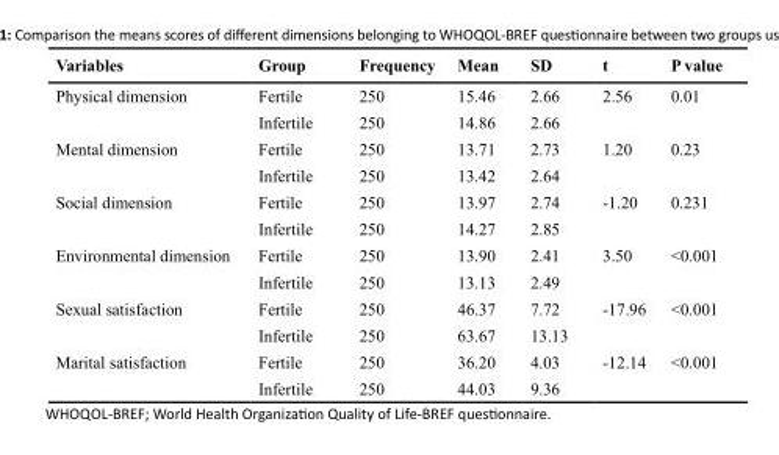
<table><thead><tr><td>Variables</td><td>Group</td><td>Frequency</td><td>Mean</td><td>SD</td><td>t</td><td>P value</td></tr></thead><tbody><tr><td rowspan="2">Physical dimension</td><td>Fertile</td><td>250</td><td>15.46</td><td>2.66</td><td>2.56</td><td>0.01</td></tr><tr><td>Infertile</td><td>250</td><td>14.86</td><td>2.66</td><td></td><td></td></tr><tr><td rowspan="2">Mental dimension</td><td>Fertile</td><td>250</td><td>13.71</td><td>2.73</td><td>1.20</td><td>0.23</td></tr><tr><td>Infertile</td><td>250</td><td>13.42</td><td>2.64</td><td></td><td></td></tr><tr><td rowspan="2">Social dimension</td><td>Fertile</td><td>250</td><td>13.97</td><td>2.74</td><td>-1.20</td><td>0.231</td></tr><tr><td>Infertile</td><td>250</td><td>14.27</td><td>2.85</td><td></td><td></td></tr><tr><td rowspan="2">Environmental dimension</td><td>Fertile</td><td>250</td><td>13.90</td><td>2.41</td><td>3.50</td><td>&lt;0.001</td></tr><tr><td>Infertile</td><td>250</td><td>13.13</td><td>2.49</td><td></td><td></td></tr><tr><td rowspan="2">Sexual satisfaction</td><td>Fertile</td><td>250</td><td>46.37</td><td>7.72</td><td>-17.96</td><td>&lt;0.001</td></tr><tr><td>Infertile</td><td>250</td><td>63.67</td><td>13.13</td><td></td><td></td></tr><tr><td rowspan="2">Marital satisfaction</td><td>Fertile</td><td>250</td><td>36.20</td><td>4.03</td><td>-12.14</td><td>&lt;0.001</td></tr><tr><td>Infertile</td><td>250</td><td>44.03</td><td>9.36</td><td></td><td></td></tr></tbody></table>